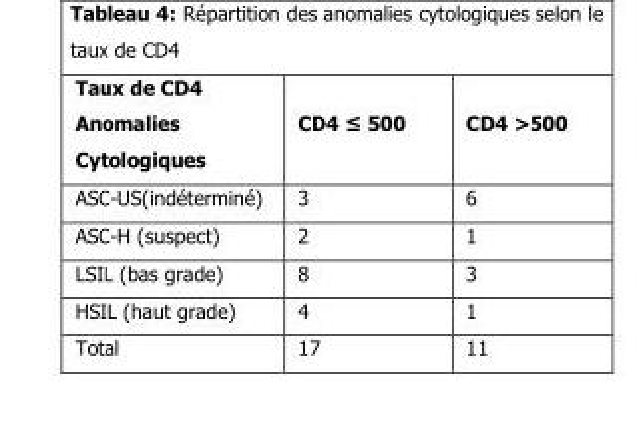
<table><thead><tr><td>Taux de CD4 Anomalies Cytologiques</td><td>CD4 ≤ 500</td><td>CD4 ˃500</td></tr></thead><tbody><tr><td>ASC-US(indéterminé)</td><td>3</td><td>6</td></tr><tr><td>ASC-H (suspect)</td><td>2</td><td>1</td></tr><tr><td>LSIL (bas grade)</td><td>8</td><td>3</td></tr><tr><td>HSIL (haut grade)</td><td>4</td><td>1</td></tr><tr><td>Total</td><td>17</td><td>11</td></tr></tbody></table>